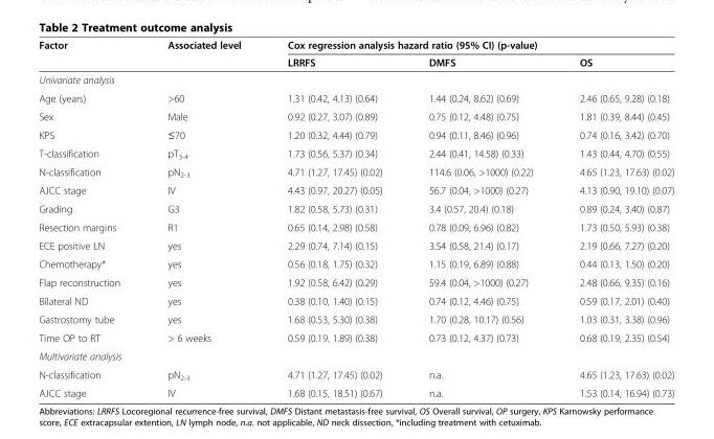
<table><thead><tr><td rowspan="2">Factor</td><td rowspan="2">Associated level</td><td colspan="3">Cox regression analysis hazard ratio (95% CI) (p-value)</td></tr><tr><td>LRRFS</td><td>DMFS</td><td>OS</td></tr></thead><tbody><tr><td colspan="5">Univariate analysis</td></tr><tr><td>Age (years)</td><td>&gt;60</td><td>1.31 (0.42, 4.13) (0.64)</td><td>1.44 (0.24, 8.62) (0.69)</td><td>2.46 (0.65, 9.28) (0.18)</td></tr><tr><td>Sex</td><td>Male</td><td>0.92 (0.27, 3.07) (0.89)</td><td>0.75 (0.12, 4.48) (0.75)</td><td>1.81 (0.39, 8.44) (0.45)</td></tr><tr><td>KPS</td><td>≤70</td><td>1.20 (0.32, 4.44) (0.79)</td><td>0.94 (0.11, 8.46) (0.96)</td><td>0.74 (0.16, 3.42) (0.70)</td></tr><tr><td>T-classification</td><td>pT<sub>3-4</sub></td><td>1.73 (0.56, 5.37) (0.34)</td><td>2.44 (0.41, 14.58) (0.33)</td><td>1.43 (0.44, 4.70) (0.55)</td></tr><tr><td>N-classification</td><td>pN<sub>2-3</sub></td><td>4.71 (1.27, 17.45) (0.02)</td><td>114.6 (0.06, &gt;1000) (0.22)</td><td>4.65 (1.23, 17.63) (0.02)</td></tr><tr><td>AJCC stage</td><td>IV</td><td>4.43 (0.97, 20.27) (0.05)</td><td>56.7 (0.04, &gt;1000) (0.27)</td><td>4.13 (0.90, 19.10) (0.07)</td></tr><tr><td>Grading</td><td>G3</td><td>1.82 (0.58, 5.73) (0.31)</td><td>3.4 (0.57, 20.4) (0.18)</td><td>0.89 (0.24, 3.40) (0.87)</td></tr><tr><td>Resection margins</td><td>R1</td><td>0.65 (0.14, 2.98) (0.58)</td><td>0.78 (0.09, 6.96) (0.82)</td><td>1.73 (0.50, 5.93) (0.38)</td></tr><tr><td>ECE positive LN</td><td>yes</td><td>2.29 (0.74, 7.14) (0.15)</td><td>3.54 (0.58, 21.4) (0.17)</td><td>2.19 (0.66, 7.27) (0.20)</td></tr><tr><td>Chemotherapy*</td><td>yes</td><td>0.56 (0.18, 1.75) (0.32)</td><td>1.15 (0.19, 6.89) (0.88)</td><td>0.44 (0.13, 1.50) (0.20)</td></tr><tr><td>Flap reconstruction</td><td>yes</td><td>1.92 (0.58, 6.42) (0.29)</td><td>59.4 (0.04, &gt;1000) (0.27)</td><td>2.48 (0.66, 9.35) (0.16)</td></tr><tr><td>Bilateral ND</td><td>yes</td><td>0.38 (0.10, 1.40) (0.15)</td><td>0.74 (0.12, 4.46) (0.75)</td><td>0.59 (0.17, 2.01) (0.40)</td></tr><tr><td>Gastrostomy tube</td><td>yes</td><td>1.68 (0.53, 5.30) (0.38)</td><td>1.70 (0.28, 10.17) (0.56)</td><td>1.03 (0.31, 3.38) (0.96)</td></tr><tr><td>Time OP to RT</td><td>&gt; 6 weeks</td><td>0.59 (0.19, 1.89) (0.38)</td><td>0.73 (0.12, 4.37) (0.73)</td><td>0.68 (0.19, 2.35) (0.54)</td></tr><tr><td colspan="5">Multivariate analysis</td></tr><tr><td>N-classification</td><td>pN<sub>2-3</sub></td><td>4.71 (1.27, 17.45) (0.02)</td><td>n.a.</td><td>4.65 (1.23, 17.63) (0.02)</td></tr><tr><td>AJCC stage</td><td>IV</td><td>1.68 (0.15, 18.51) (0.67)</td><td>n.a.</td><td>1.53 (0.14, 16.94) (0.73)</td></tr></tbody></table>